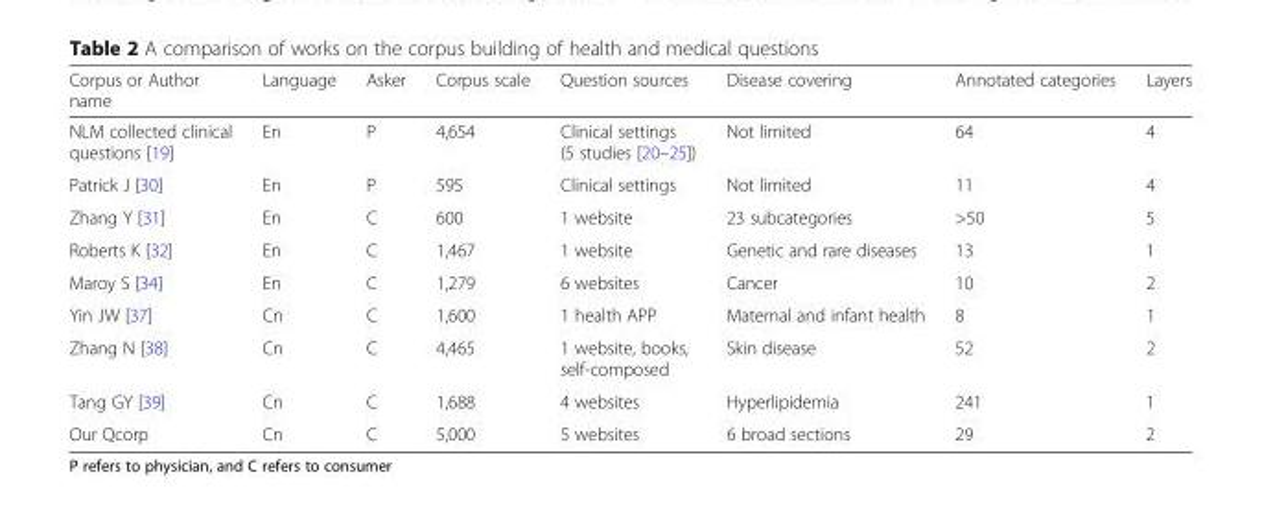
<table><thead><tr><td>Corpus or Author name</td><td>Language</td><td>Asker</td><td>Corpus scale</td><td>Question sources</td><td>Disease covering</td><td>Annotated categories</td><td>Layers</td></tr></thead><tbody><tr><td>NLM collected clinical questions [19]</td><td>En</td><td>P</td><td>4,654</td><td>Clinical settings (5 studies [20–25])</td><td>Not limited</td><td>64</td><td>4</td></tr><tr><td>Patrick J [30]</td><td>En</td><td>P</td><td>595</td><td>Clinical settings</td><td>Not limited</td><td>11</td><td>4</td></tr><tr><td>Zhang Y [31]</td><td>En</td><td>C</td><td>600</td><td>1 website</td><td>23 subcategories</td><td>&gt;50</td><td>5</td></tr><tr><td>Roberts K [32]</td><td>En</td><td>C</td><td>1,467</td><td>1 website</td><td>Genetic and rare diseases</td><td>13</td><td>1</td></tr><tr><td>Maroy S [34]</td><td>En</td><td>C</td><td>1,279</td><td>6 websites</td><td>Cancer</td><td>10</td><td>2</td></tr><tr><td>Yin JW [37]</td><td>Cn</td><td>C</td><td>1,600</td><td>1 health APP</td><td>Maternal and infant health</td><td>8</td><td>1</td></tr><tr><td>Zhang N [38]</td><td>Cn</td><td>C</td><td>4,465</td><td>1 website, books, self-composed</td><td>Skin disease</td><td>52</td><td>2</td></tr><tr><td>Tang GY [39]</td><td>Cn</td><td>C</td><td>1,688</td><td>4 websites</td><td>Hyperlipidemia</td><td>241</td><td>1</td></tr><tr><td>Our Qcorp</td><td>Cn</td><td>C</td><td>5,000</td><td>5 websites</td><td>6 broad sections</td><td>29</td><td>2</td></tr></tbody></table>